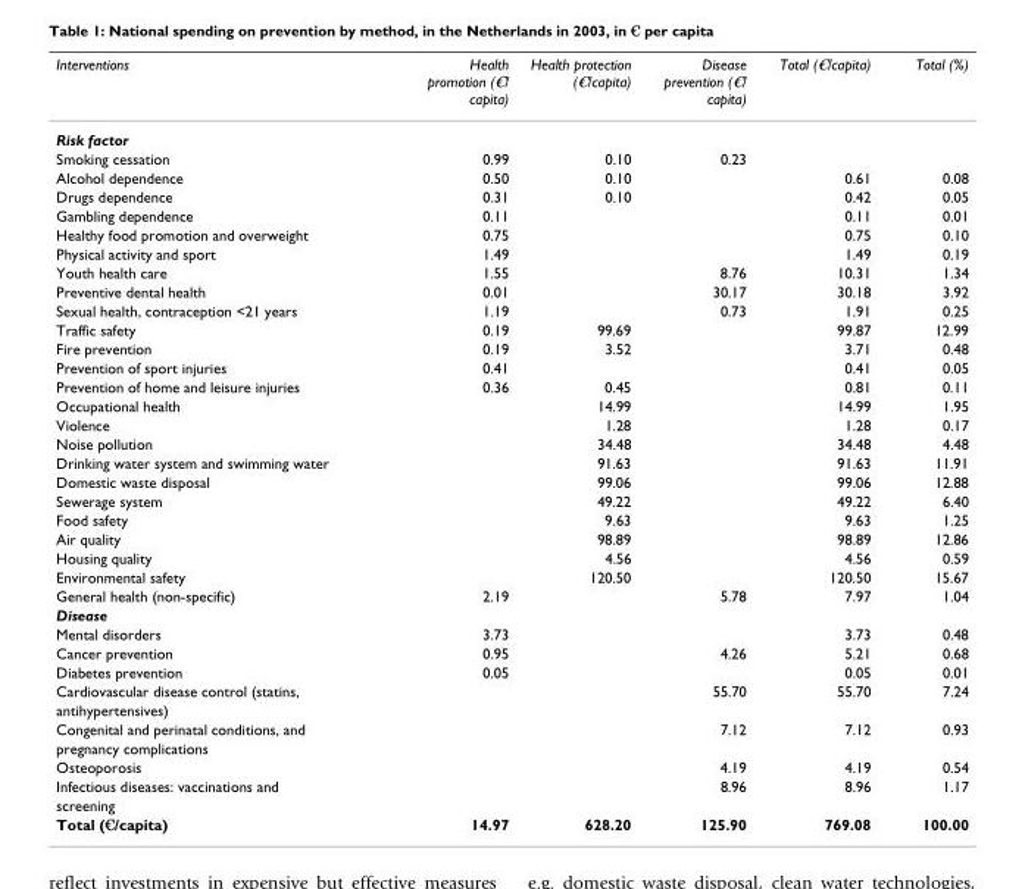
<table><thead><tr><td>Interventions</td><td>Health promotion (€/ capita)</td><td>Health protection (€/capita)</td><td>Disease prevention (€/ capita)</td><td>Total (€/capita)</td><td>Total (%)</td></tr></thead><tbody><tr><td colspan="6">Risk factor</td></tr><tr><td>Smoking cessation</td><td>0.99</td><td>0.10</td><td>0.23</td><td></td><td></td></tr><tr><td>Alcohol dependence</td><td>0.50</td><td>0.10</td><td></td><td>0.61</td><td>0.08</td></tr><tr><td>Drugs dependence</td><td>0.31</td><td>0.10</td><td></td><td>0.42</td><td>0.05</td></tr><tr><td>Gambling dependence</td><td>0.11</td><td></td><td></td><td>0.11</td><td>0.01</td></tr><tr><td>Healthy food promotion and overweight</td><td>0.75</td><td></td><td></td><td>0.75</td><td>0.10</td></tr><tr><td>Physical activity and sport</td><td>1.49</td><td></td><td></td><td>1.49</td><td>0.19</td></tr><tr><td>Youth health care</td><td>1.55</td><td></td><td>8.76</td><td>10.31</td><td>1.34</td></tr><tr><td>Preventive dental health</td><td>0.01</td><td></td><td>30.17</td><td>30.18</td><td>3.92</td></tr><tr><td>Sexual health, contraception &lt;21 years</td><td>1.19</td><td></td><td>0.73</td><td>1.91</td><td>0.25</td></tr><tr><td>Traffic safety</td><td>0.19</td><td>99.69</td><td></td><td>99.87</td><td>12.99</td></tr><tr><td>Fire prevention</td><td>0.19</td><td>3.52</td><td></td><td>3.71</td><td>0.48</td></tr><tr><td>Prevention of sport injuries</td><td>0.41</td><td></td><td></td><td>0.41</td><td>0.05</td></tr><tr><td>Prevention of home and leisure injuries</td><td>0.36</td><td>0.45</td><td></td><td>0.81</td><td>0.11</td></tr><tr><td>Occupational health</td><td></td><td>14.99</td><td></td><td>14.99</td><td>1.95</td></tr><tr><td>Violence</td><td></td><td>1.28</td><td></td><td>1.28</td><td>0.17</td></tr><tr><td>Noise pollution</td><td></td><td>34.48</td><td></td><td>34.48</td><td>4.48</td></tr><tr><td>Drinking water system and swimming water</td><td></td><td>91.63</td><td></td><td>91.63</td><td>11.91</td></tr><tr><td>Domestic waste disposal</td><td></td><td>99.06</td><td></td><td>99.06</td><td>12.88</td></tr><tr><td>Sewerage system</td><td></td><td>49.22</td><td></td><td>49.22</td><td>6.40</td></tr><tr><td>Food safety</td><td></td><td>9.63</td><td></td><td>9.63</td><td>1.25</td></tr><tr><td>Air quality</td><td></td><td>98.89</td><td></td><td>98.89</td><td>12.86</td></tr><tr><td>Housing quality</td><td></td><td>4.56</td><td></td><td>4.56</td><td>0.59</td></tr><tr><td>Environmental safety</td><td></td><td>120.50</td><td></td><td>120.50</td><td>15.67</td></tr><tr><td>General health (non-specific)</td><td>2.19</td><td></td><td>5.78</td><td>7.97</td><td>1.04</td></tr><tr><td colspan="6">Disease</td></tr><tr><td>Mental disorders</td><td>3.73</td><td></td><td></td><td>3.73</td><td>0.48</td></tr><tr><td>Cancer prevention</td><td>0.95</td><td></td><td>4.26</td><td>5.21</td><td>0.68</td></tr><tr><td>Diabetes prevention</td><td>0.05</td><td></td><td></td><td>0.05</td><td>0.01</td></tr><tr><td>Cardiovascular disease control (statins,</td><td></td><td></td><td>55.70</td><td>55.70</td><td>7.24</td></tr><tr><td colspan="6">antihypertensives)</td></tr><tr><td>Congenital and perinatal conditions, and</td><td></td><td></td><td>7.12</td><td>7.12</td><td>0.93</td></tr><tr><td colspan="6">pregnancy complications</td></tr><tr><td>Osteoporosis</td><td></td><td></td><td>4.19</td><td>4.19</td><td>0.54</td></tr><tr><td>Infectious diseases: vaccinations and</td><td></td><td></td><td>8.96</td><td>8.96</td><td>1.17</td></tr><tr><td colspan="6">screening</td></tr><tr><td>Total (€/capita)</td><td>14.97</td><td>628.20</td><td>125.90</td><td>769.08</td><td>100.00</td></tr></tbody></table>